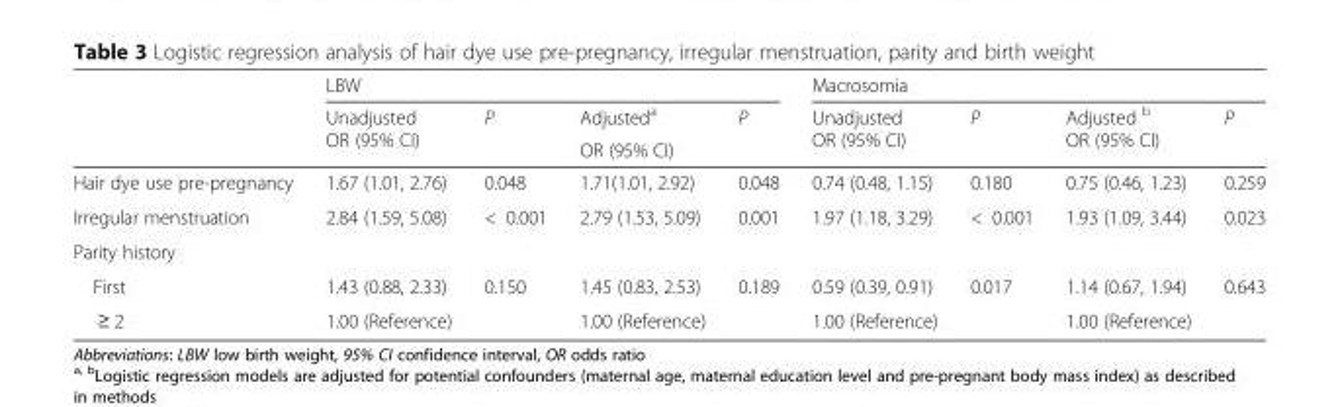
<table><thead><tr><td rowspan="3"></td><td colspan="4">LBW</td><td colspan="4">Macrosomia</td></tr><tr><td rowspan="2">Unadjusted OR (95% CI)</td><td rowspan="2">P</td><td rowspan="2">Adjusted<sup>a</sup> OR (95% CI)</td><td rowspan="2">P</td><td rowspan="2">Unadjusted OR (95% CI)</td><td rowspan="2">P</td><td rowspan="2">Adjusted <sup>b</sup> OR (95% CI)</td><td rowspan="2">P</td></tr><tr></tr></thead><tbody><tr><td>Hair dye use pre-pregnancy</td><td>1.67 (1.01, 2.76)</td><td>0.048</td><td>1.71(1.01, 2.92)</td><td>0.048</td><td>0.74 (0.48, 1.15)</td><td>0.180</td><td>0.75 (0.46, 1.23)</td><td>0.259</td></tr><tr><td>Irregular menstruation</td><td>2.84 (1.59, 5.08)</td><td>&lt; 0.001</td><td>2.79 (1.53, 5.09)</td><td>0.001</td><td>1.97 (1.18, 3.29)</td><td>&lt; 0.001</td><td>1.93 (1.09, 3.44)</td><td>0.023</td></tr><tr><td colspan="9">Parity history</td></tr><tr><td>First</td><td>1.43 (0.88, 2.33)</td><td>0.150</td><td>1.45 (0.83, 2.53)</td><td>0.189</td><td>0.59 (0.39, 0.91)</td><td>0.017</td><td>1.14 (0.67, 1.94)</td><td>0.643</td></tr><tr><td>≥ 2</td><td>1.00 (Reference)</td><td></td><td>1.00 (Reference)</td><td></td><td>1.00 (Reference)</td><td></td><td>1.00 (Reference)</td><td></td></tr></tbody></table>